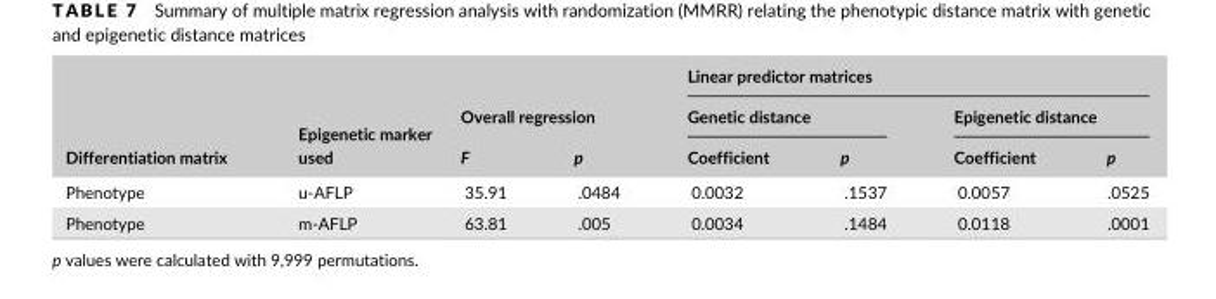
<table><thead><tr><td rowspan="3">Differentiation matrix</td><td rowspan="3">Epigenetic marker used</td><td rowspan="2" colspan="2">Overall regression</td><td colspan="4">Linear predictor matrices</td></tr><tr><td colspan="2">Genetic distance</td><td colspan="2">Epigenetic distance</td></tr><tr><td>F</td><td>p</td><td>Coefficient</td><td>p</td><td>Coefficient</td><td>p</td></tr></thead><tbody><tr><td>Phenotype</td><td>u- AFLP</td><td>35.91</td><td>.0484</td><td>0.0032</td><td>.1537</td><td>0.0057</td><td>.0525</td></tr><tr><td>Phenotype</td><td>m- AFLP</td><td>63.81</td><td>.005</td><td>0.0034</td><td>.1484</td><td>0.0118</td><td>.0001</td></tr></tbody></table>